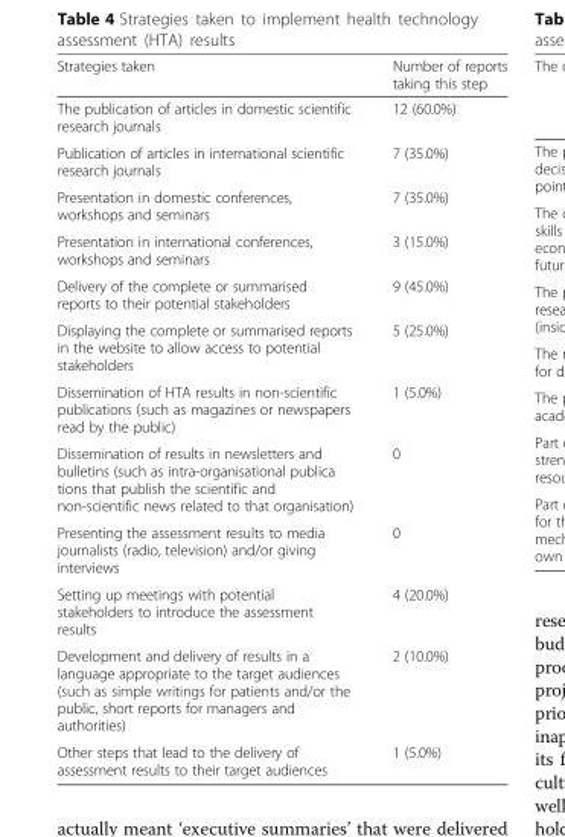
<table><thead><tr><td>Strategies taken</td><td>Number of reports taking this step</td></tr></thead><tbody><tr><td>The publication of articles in domestic scientific research journals</td><td>12 (60.0%)</td></tr><tr><td>Publication of articles in international scientific research journals</td><td>7 (35.0%)</td></tr><tr><td>Presentation in domestic conferences, workshops and seminars</td><td>7 (35.0%)</td></tr><tr><td>Presentation in international conferences, workshops and seminars</td><td>3 (15.0%)</td></tr><tr><td>Delivery of the complete or summarised reports to their potential stakeholders</td><td>9 (45.0%)</td></tr><tr><td>Displaying the complete or summarised reports in the website to allow access to potential stakeholders</td><td>5 (25.0%)</td></tr><tr><td>Dissemination of HTA results in non-scientific publications (such as magazines or newspapers read by the public)</td><td>1 (5.0%)</td></tr><tr><td>Dissemination of results in newsletters and bulletins (such as intra-organisational publica tions that publish the scientific and non-scientific news related to that organisation)</td><td>0</td></tr><tr><td>Presenting the assessment results to media journalists (radio, television) and/or giving interviews</td><td>0</td></tr><tr><td>Setting up meetings with potential stakeholders to introduce the assessment results</td><td>4 (20.0%)</td></tr><tr><td>Development and delivery of results in a language appropriate to the target audiences (such as simple writings for patients and/or the public, short reports for managers and authorities)</td><td>2 (10.0%)</td></tr><tr><td>Other steps that lead to the delivery of assessment results to their target audiences</td><td>1 (5.0%)</td></tr></tbody></table>